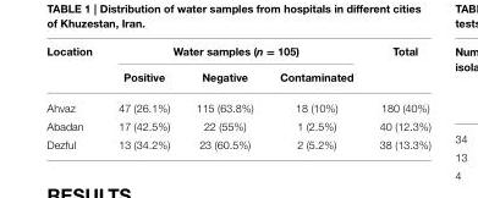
<table><thead><tr><td rowspan="2">Location</td><td colspan="3">Water samples (n = 105)</td><td rowspan="2">Total</td></tr><tr><td>Positive</td><td>Negative</td><td>Contaminated</td></tr></thead><tbody><tr><td>Ahvaz</td><td>47 (26.1%)</td><td>115 (63.8%)</td><td>18 (10%)</td><td>180 (40%)</td></tr><tr><td>Abadan</td><td>17 (42.5%)</td><td>22 (55%)</td><td>1 (2.5%)</td><td>40 (12.3%)</td></tr><tr><td>Dezful</td><td>13 (34.2%)</td><td>23 (60.5%)</td><td>2 (5.2%)</td><td>38 (13.3%)</td></tr></tbody></table>